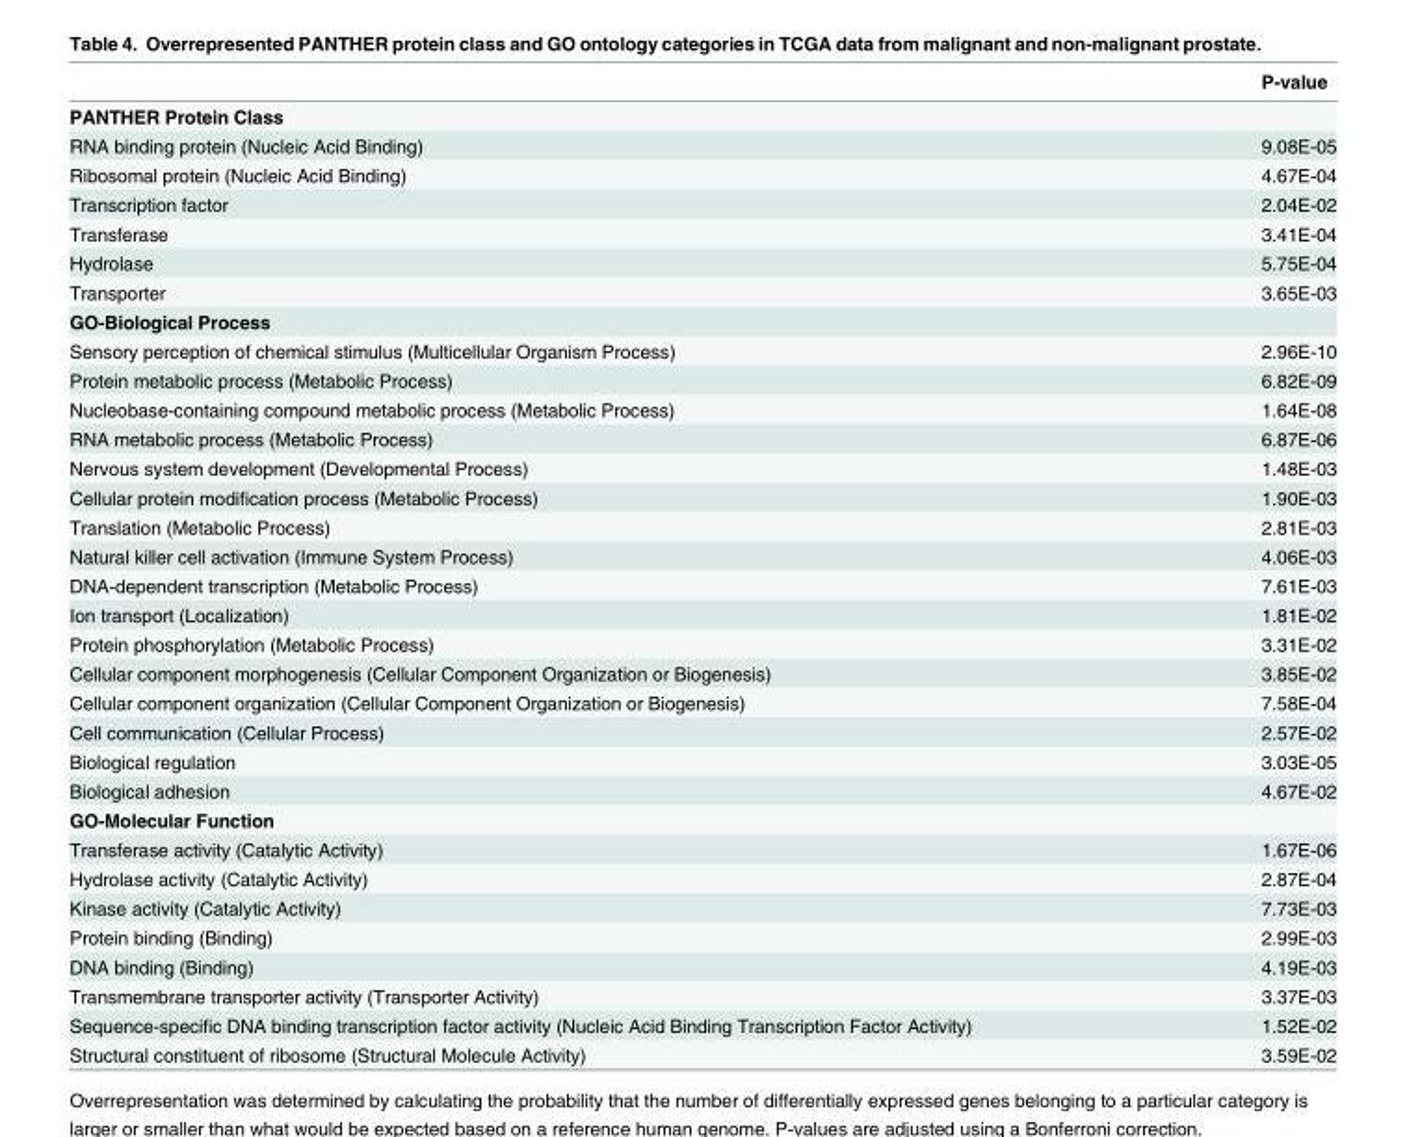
<table><thead><tr><td></td><td>P-value</td></tr></thead><tbody><tr><td colspan="2">PANTHER Protein Class</td></tr><tr><td>RNA binding protein (Nucleic Acid Binding)</td><td>9.08E-05</td></tr><tr><td>Ribosomal protein (Nucleic Acid Binding)</td><td>4.67E-04</td></tr><tr><td>Transcription factor</td><td>2.04E-02</td></tr><tr><td>Transferase</td><td>3.41E-04</td></tr><tr><td>Hydrolase</td><td>5.75E-04</td></tr><tr><td>Transporter</td><td>3.65E-03</td></tr><tr><td colspan="2">GO-Biological Process</td></tr><tr><td>Sensory perception of chemical stimulus (Multicellular Organism Process)</td><td>2.96E-10</td></tr><tr><td>Protein metabolic process (Metabolic Process)</td><td>6.82E-09</td></tr><tr><td>Nucleobase-containing compound metabolic process (Metabolic Process)</td><td>1.64E-08</td></tr><tr><td>RNA metabolic process (Metabolic Process)</td><td>6.87E-06</td></tr><tr><td>Nervous system development (Developmental Process)</td><td>1.48E-03</td></tr><tr><td>Cellular protein modification process (Metabolic Process)</td><td>1.90E-03</td></tr><tr><td>Translation (Metabolic Process)</td><td>2.81E-03</td></tr><tr><td>Natural killer cell activation (Immune System Process)</td><td>4.06E-03</td></tr><tr><td>DNA-dependent transcription (Metabolic Process)</td><td>7.61E-03</td></tr><tr><td>Ion transport (Localization)</td><td>1.81E-02</td></tr><tr><td>Protein phosphorylation (Metabolic Process)</td><td>3.31E-02</td></tr><tr><td>Cellular component morphogenesis (Cellular Component Organization or Biogenesis)</td><td>3.85E-02</td></tr><tr><td>Cellular component organization (Cellular Component Organization or Biogenesis)</td><td>7.58E-04</td></tr><tr><td>Cell communication (Cellular Process)</td><td>2.57E-02</td></tr><tr><td>Biological regulation</td><td>3.03E-05</td></tr><tr><td>Biological adhesion</td><td>4.67E-02</td></tr><tr><td colspan="2">GO-Molecular Function</td></tr><tr><td>Transferase activity (Catalytic Activity)</td><td>1.67E-06</td></tr><tr><td>Hydrolase activity (Catalytic Activity)</td><td>2.87E-04</td></tr><tr><td>Kinase activity (Catalytic Activity)</td><td>7.73E-03</td></tr><tr><td>Protein binding (Binding)</td><td>2.99E-03</td></tr><tr><td>DNA binding (Binding)</td><td>4.19E-03</td></tr><tr><td>Transmembrane transporter activity (Transporter Activity)</td><td>3.37E-03</td></tr><tr><td>Sequence-specific DNA binding transcription factor activity (Nucleic Acid Binding Transcription Factor Activity)</td><td>1.52E-02</td></tr><tr><td>Structural constituent of ribosome (Structural Molecule Activity)</td><td>3.59E-02</td></tr></tbody></table>